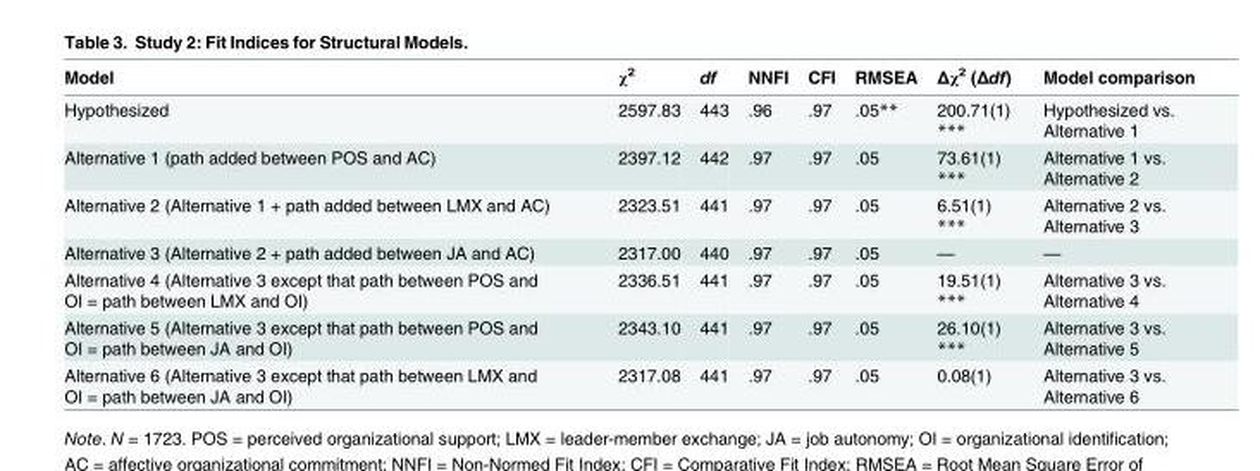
<table><thead><tr><td>Model</td><td>χ<sup>2</sup></td><td>df</td><td>NNFI</td><td>CFI</td><td>RMSEA</td><td>Δχ<sup>2</sup> (Δdf)</td><td>Model comparison</td></tr></thead><tbody><tr><td>Hypothesized</td><td>2597.83</td><td>443</td><td>.96</td><td>.97</td><td>.05**</td><td>200.71(1) ***</td><td>Hypothesized vs. Alternative 1</td></tr><tr><td>Alternative 1 (path added between POS and AC)</td><td>2397.12</td><td>442</td><td>.97</td><td>.97</td><td>.05</td><td>73.61(1) ***</td><td>Alternative 1 vs. Alternative 2</td></tr><tr><td>Alternative 2 (Alternative 1 + path added between LMX and AC)</td><td>2323.51</td><td>441</td><td>.97</td><td>.97</td><td>.05</td><td>6.51(1) ***</td><td>Alternative 2 vs. Alternative 3</td></tr><tr><td>Alternative 3 (Alternative 2 + path added between JA and AC)</td><td>2317.00</td><td>440</td><td>.97</td><td>.97</td><td>.05</td><td>—</td><td>—</td></tr><tr><td>Alternative 4 (Alternative 3 except that path between POS and OI = path between LMX and OI)</td><td>2336.51</td><td>441</td><td>.97</td><td>.97</td><td>.05</td><td>19.51(1) ***</td><td>Alternative 3 vs. Alternative 4</td></tr><tr><td>Alternative 5 (Alternative 3 except that path between POS and OI = path between JA and OI)</td><td>2343.10</td><td>441</td><td>.97</td><td>.97</td><td>.05</td><td>26.10(1) ***</td><td>Alternative 3 vs. Alternative 5</td></tr><tr><td>Alternative 6 (Alternative 3 except that path between LMX and OI = path between JA and OI)</td><td>2317.08</td><td>441</td><td>.97</td><td>.97</td><td>.05</td><td>0.08(1)</td><td>Alternative 3 vs. Alternative 6</td></tr></tbody></table>